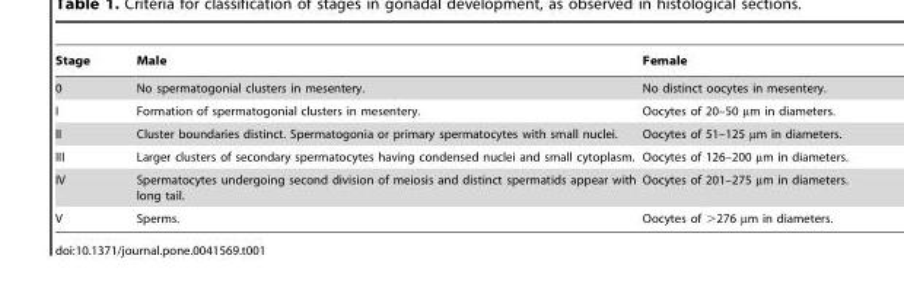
<table><thead><tr><td>Stage</td><td>Male</td><td>Female</td></tr></thead><tbody><tr><td>0</td><td>No spermatogonial clusters in mesentery.</td><td>No distinct oocytes in mesentery.</td></tr><tr><td>I</td><td>Formation of spermatogonial clusters in mesentery.</td><td>Oocytes of 20–50 µm in diameters.</td></tr><tr><td>II</td><td>Cluster boundaries distinct. Spermatogonia or primary spermatocytes with small nuclei.</td><td>Oocytes of 51–125 µm in diameters.</td></tr><tr><td>III</td><td>Larger clusters of secondary spermatocytes having condensed nuclei and small cytoplasm.</td><td>Oocytes of 126–200 µm in diameters.</td></tr><tr><td>IV</td><td>Spermatocytes undergoing second division of meiosis and distinct spermatids appear with long tail.</td><td>Oocytes of 201–275 µm in diameters.</td></tr><tr><td>V</td><td>Sperms.</td><td>Oocytes of &gt;276 µm in diameters.</td></tr></tbody></table>